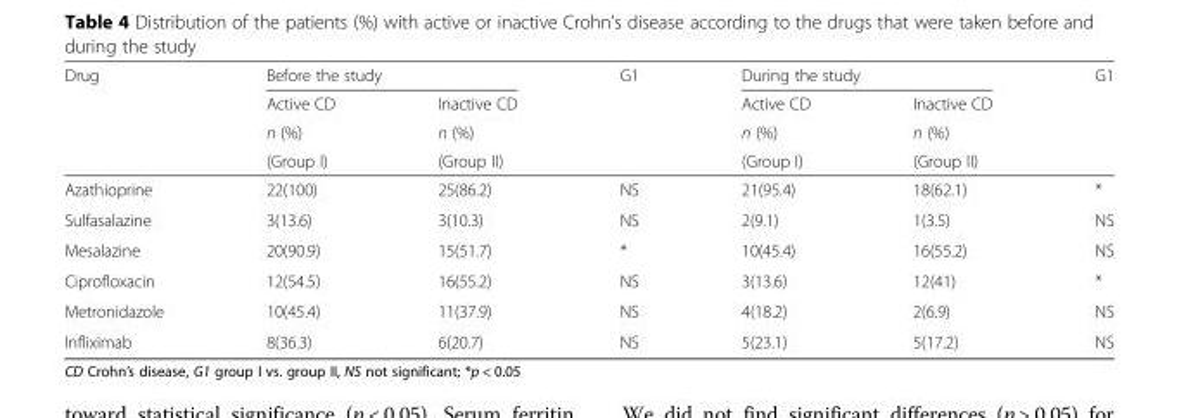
<table><thead><tr><td rowspan="4">Drug</td><td colspan="2">Before the study</td><td rowspan="4">G1</td><td colspan="2">During the study</td><td rowspan="4">G1</td></tr><tr><td rowspan="3">Active CD n (%) (Group I)</td><td rowspan="3">Inactive CD n (%) (Group II)</td><td rowspan="3">Active CD n (%) (Group I)</td><td rowspan="3">Inactive CD n (%) (Group II)</td></tr><tr></tr><tr></tr></thead><tbody><tr><td>Azathioprine</td><td>22(100)</td><td>25(86.2)</td><td>NS</td><td>21(95.4)</td><td>18(62.1)</td><td>*</td></tr><tr><td>Sulfasalazine</td><td>3(13.6)</td><td>3(10.3)</td><td>NS</td><td>2(9.1)</td><td>1(3.5)</td><td>NS</td></tr><tr><td>Mesalazine</td><td>20(90.9)</td><td>15(51.7)</td><td>*</td><td>10(45.4)</td><td>16(55.2)</td><td>NS</td></tr><tr><td>Ciprofloxacin</td><td>12(54.5)</td><td>16(55.2)</td><td>NS</td><td>3(13.6)</td><td>12(41)</td><td>*</td></tr><tr><td>Metronidazole</td><td>10(45.4)</td><td>11(37.9)</td><td>NS</td><td>4(18.2)</td><td>2(6.9)</td><td>NS</td></tr><tr><td>Infliximab</td><td>8(36.3)</td><td>6(20.7)</td><td>NS</td><td>5(23.1)</td><td>5(17.2)</td><td>NS</td></tr></tbody></table>